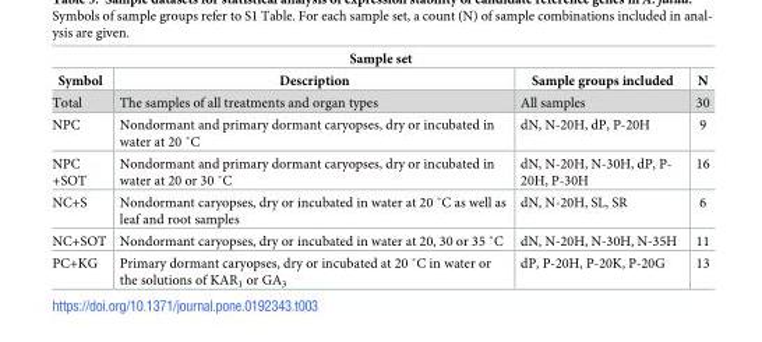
<table><thead><tr><td colspan="4">Sample set</td></tr><tr><td>Symbol</td><td>Description</td><td>Sample groups included</td><td>N</td></tr></thead><tbody><tr><td>Total</td><td>The samples of all treatments and organ types</td><td>All samples</td><td>30</td></tr><tr><td>NPC</td><td>Nondormant and primary dormant caryopses, dry or incubated in water at 20 ˚C</td><td>dN, N-20H, dP, P-20H</td><td>9</td></tr><tr><td>NPC +SOT</td><td>Nondormant and primary dormant caryopses, dry or incubated in water at 20 or 30 ˚C</td><td>dN, N-20H, N-30H, dP, P- 20H, P-30H</td><td>16</td></tr><tr><td>NC+S</td><td>Nondormant caryopses, dry or incubated in water at 20 ˚C as well as leaf and root samples</td><td>dN, N-20H, SL, SR</td><td>6</td></tr><tr><td>NC+SOT</td><td>Nondormant caryopses, dry or incubated in water at 20, 30 or 35 ˚C</td><td>dN, N-20H, N-30H, N-35H</td><td>11</td></tr><tr><td>PC+KG</td><td>Primary dormant caryopses, dry or incubated at 20 ˚C in water or the solutions of KAR1 or GA3</td><td>dP, P-20H, P-20K, P-20G</td><td>13</td></tr></tbody></table>